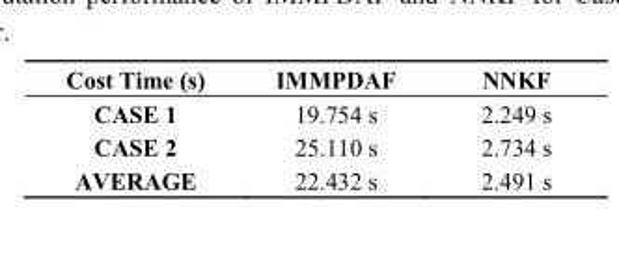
<table><thead><tr><td>Cost Time (s)</td><td>IMMPDAF</td><td>NNKF</td></tr></thead><tbody><tr><td>CASE 1</td><td>19.754 s</td><td>2.249 s</td></tr><tr><td>CASE 2</td><td>25.110 s</td><td>2.734 s</td></tr><tr><td>AVERAGE</td><td>22.432 s</td><td>2.491 s</td></tr></tbody></table>